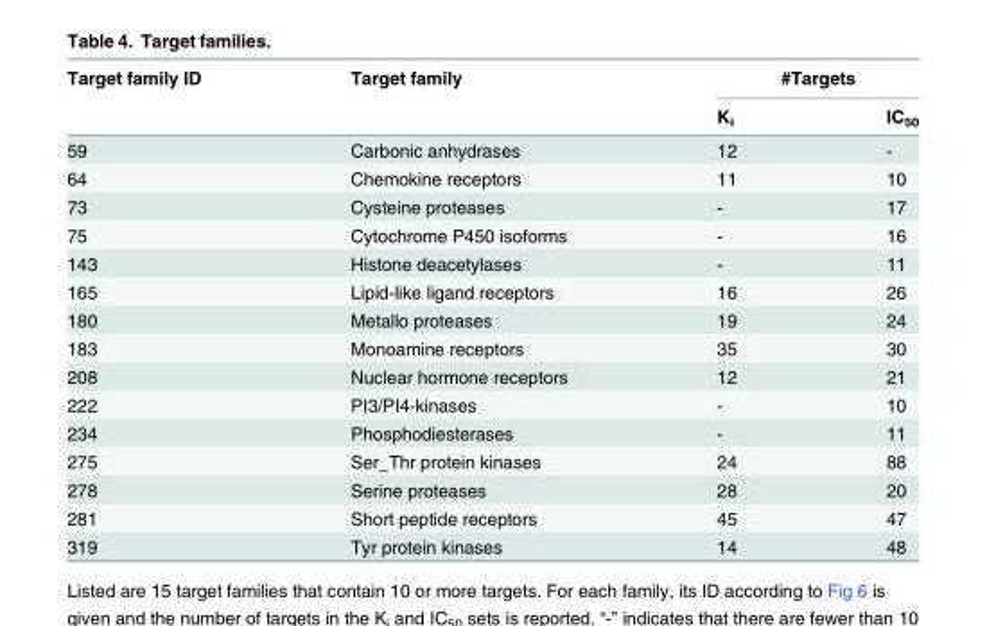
<table><thead><tr><td rowspan="2">Target family ID</td><td rowspan="2">Target family</td><td colspan="2">#Targets</td></tr><tr><td>K<sub>i</sub></td><td>IC<sub>50</sub></td></tr></thead><tbody><tr><td>59</td><td>Carbonic anhydrases</td><td>12</td><td>-</td></tr><tr><td>64</td><td>Chemokine receptors</td><td>11</td><td>10</td></tr><tr><td>73</td><td>Cysteine proteases</td><td>-</td><td>17</td></tr><tr><td>75</td><td>Cytochrome P450 isoforms</td><td>-</td><td>16</td></tr><tr><td>143</td><td>Histone deacetylases</td><td>-</td><td>11</td></tr><tr><td>165</td><td>Lipid-like ligand receptors</td><td>16</td><td>26</td></tr><tr><td>180</td><td>Metallo proteases</td><td>19</td><td>24</td></tr><tr><td>183</td><td>Monoamine receptors</td><td>35</td><td>30</td></tr><tr><td>208</td><td>Nuclear hormone receptors</td><td>12</td><td>21</td></tr><tr><td>222</td><td>PI3/PI4-kinases</td><td>-</td><td>10</td></tr><tr><td>234</td><td>Phosphodiesterases</td><td>-</td><td>11</td></tr><tr><td>275</td><td>Ser_Thr protein kinases</td><td>24</td><td>88</td></tr><tr><td>278</td><td>Serine proteases</td><td>28</td><td>20</td></tr><tr><td>281</td><td>Short peptide receptors</td><td>45</td><td>47</td></tr><tr><td>319</td><td>Tyr protein kinases</td><td>14</td><td>48</td></tr></tbody></table>